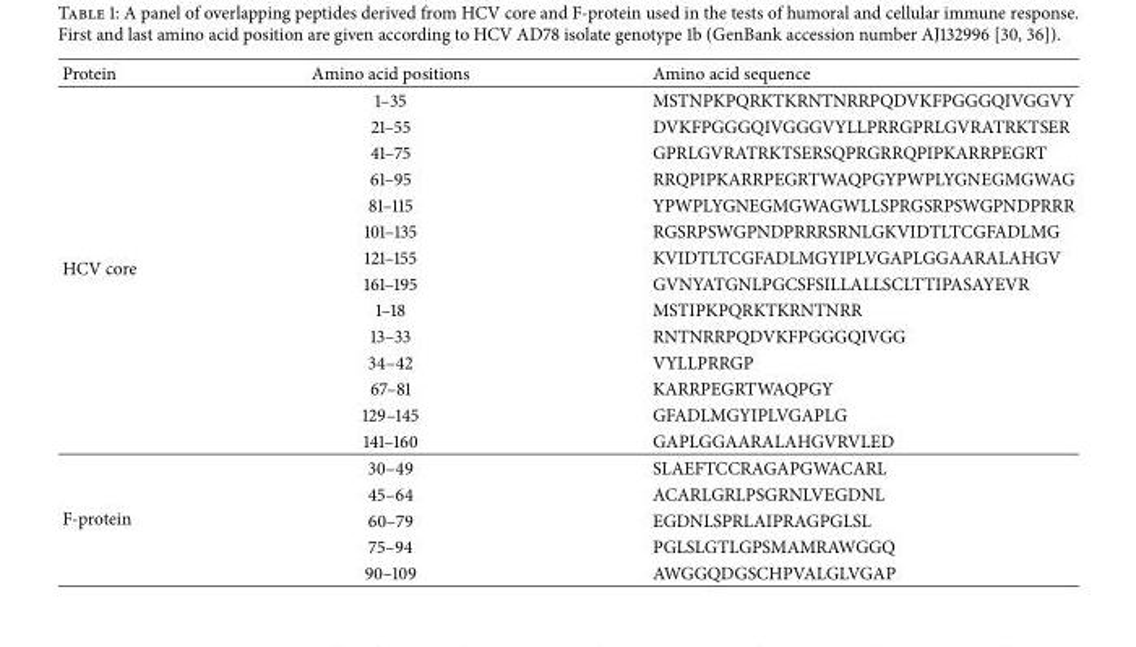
<table><thead><tr><td>Protein</td><td>Amino acid positions</td><td>Amino acid sequence</td></tr></thead><tbody><tr><td rowspan="14">HCV core</td><td>1–35</td><td>MSTNPKPQRKTKRNTNRRPQDVKFPGGGQIVGGVY</td></tr><tr><td>21–55</td><td>DVKFPGGGQIVGGGVYLLPRRGPRLGVRATRKTSER</td></tr><tr><td>41–75</td><td>GPRLGVRATRKTSERSQPRGRRQPIPKARRPEGRT</td></tr><tr><td>61–95</td><td>RRQPIPKARRPEGRTWAQPGYPWPLYGNEGMGWAG</td></tr><tr><td>81–115</td><td>YPWPLYGNEGMGWAGWLLSPRGSRPSWGPNDPRRR</td></tr><tr><td>101–135</td><td>RGSRPSWGPNDPRRRSRNLGKVIDTLTCGFADLMG</td></tr><tr><td>121–155</td><td>KVIDTLTCGFADLMGYIPLVGAPLGGAARALAHGV</td></tr><tr><td>161–195</td><td>GVNYATGNLPGCSFSILLALLSCLTTIPASAYEVR</td></tr><tr><td>1–18</td><td>MSTIPKPQRKTKRNTNRR</td></tr><tr><td>13–33</td><td>RNTNRRPQDVKFPGGGQIVGG</td></tr><tr><td>34–42</td><td>VYLLPRRGP</td></tr><tr><td>67–81</td><td>KARRPEGRTWAQPGY</td></tr><tr><td>129–145</td><td>GFADLMGYIPLVGAPLG</td></tr><tr><td>141–160</td><td>GAPLGGAARALAHGVRVLED</td></tr><tr><td rowspan="5">F-protein</td><td>30–49</td><td>SLAEFTCCRAGAPGWACARL</td></tr><tr><td>45–64</td><td>ACARLGRLPSGRNLVEGDNL</td></tr><tr><td>60–79</td><td>EGDNLSPRLAIPRAGPGLSL</td></tr><tr><td>75–94</td><td>PGLSLGTLGPSMAMRAWGGQ</td></tr><tr><td>90–109</td><td>AWGGQDGSCHPVALGLVGAP</td></tr></tbody></table>